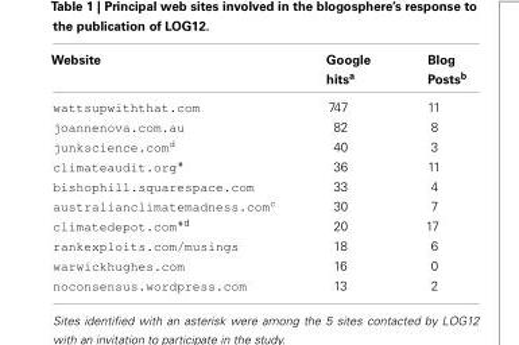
<table><thead><tr><td>Website</td><td>Google hitsa</td><td>Blog Postsb</td></tr></thead><tbody><tr><td>wattsupwiththat.com</td><td>747</td><td>11</td></tr><tr><td>joannenova.com.au</td><td>82</td><td>8</td></tr><tr><td>junkscience.comd</td><td>40</td><td>3</td></tr><tr><td>climateaudit.org*</td><td>36</td><td>11</td></tr><tr><td>bishophill.squarespace.com</td><td>33</td><td>4</td></tr><tr><td>australianclimatemadness.comc</td><td>30</td><td>7</td></tr><tr><td>climatedepot.com*d</td><td>20</td><td>17</td></tr><tr><td>rankexploits.com/musings</td><td>18</td><td>6</td></tr><tr><td>warwickhughes.com</td><td>16</td><td>0</td></tr><tr><td>noconsensus.wordpress.com</td><td>13</td><td>2</td></tr></tbody></table>